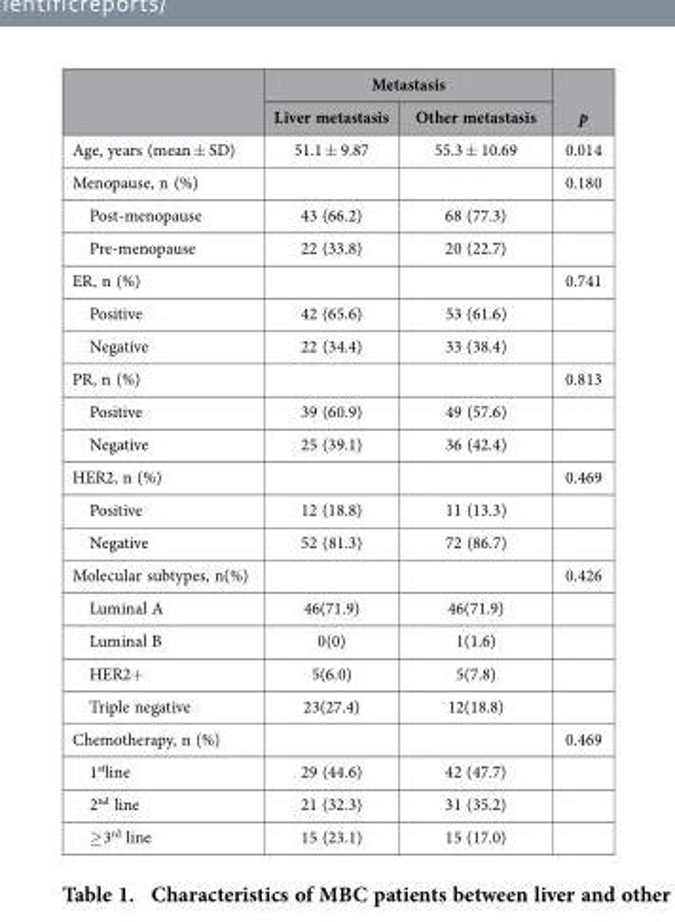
<table><thead><tr><td rowspan="2"></td><td colspan="2">Metastasis</td><td rowspan="2">p</td></tr><tr><td>Liver metastasis</td><td>Other metastasis</td></tr></thead><tbody><tr><td>Age, years (mean ± SD)</td><td>51.1 ± 9.87</td><td>55.3 ± 10.69</td><td>0.014</td></tr><tr><td>Menopause, n (%)</td><td></td><td></td><td>0.180</td></tr><tr><td>Post-menopause</td><td>43 (66.2)</td><td>68 (77.3)</td><td></td></tr><tr><td>Pre-menopause</td><td>22 (33.8)</td><td>20 (22.7)</td><td></td></tr><tr><td>ER, n (%)</td><td></td><td></td><td>0.741</td></tr><tr><td>Positive</td><td>42 (65.6)</td><td>53 (61.6)</td><td></td></tr><tr><td>Negative</td><td>22 (34.4)</td><td>33 (38.4)</td><td></td></tr><tr><td>PR, n (%)</td><td></td><td></td><td>0.813</td></tr><tr><td>Positive</td><td>39 (60.9)</td><td>49 (57.6)</td><td></td></tr><tr><td>Negative</td><td>25 (39.1)</td><td>36 (42.4)</td><td></td></tr><tr><td>HER2, n (%)</td><td></td><td></td><td>0.469</td></tr><tr><td>Positive</td><td>12 (18.8)</td><td>11 (13.3)</td><td></td></tr><tr><td>Negative</td><td>52 (81.3)</td><td>72 (86.7)</td><td></td></tr><tr><td>Molecular subtypes, n(%)</td><td></td><td></td><td>0.426</td></tr><tr><td>Luminal A</td><td>46(71.9)</td><td>46(71.9)</td><td></td></tr><tr><td>Luminal B</td><td>0(0)</td><td>1(1.6)</td><td></td></tr><tr><td>HER2+</td><td>5(6.0)</td><td>5(7.8)</td><td></td></tr><tr><td>Triple negative</td><td>23(27.4)</td><td>12(18.8)</td><td></td></tr><tr><td>Chemotherapy, n (%)</td><td></td><td></td><td>0.469</td></tr><tr><td>1<sup>st</sup>line</td><td>29 (44.6)</td><td>42 (47.7)</td><td></td></tr><tr><td>2<sup>nd</sup> line</td><td>21 (32.3)</td><td>31 (35.2)</td><td></td></tr><tr><td>≥ 3<sup>rd</sup> line</td><td>15 (23.1)</td><td>15 (17.0)</td><td></td></tr></tbody></table>